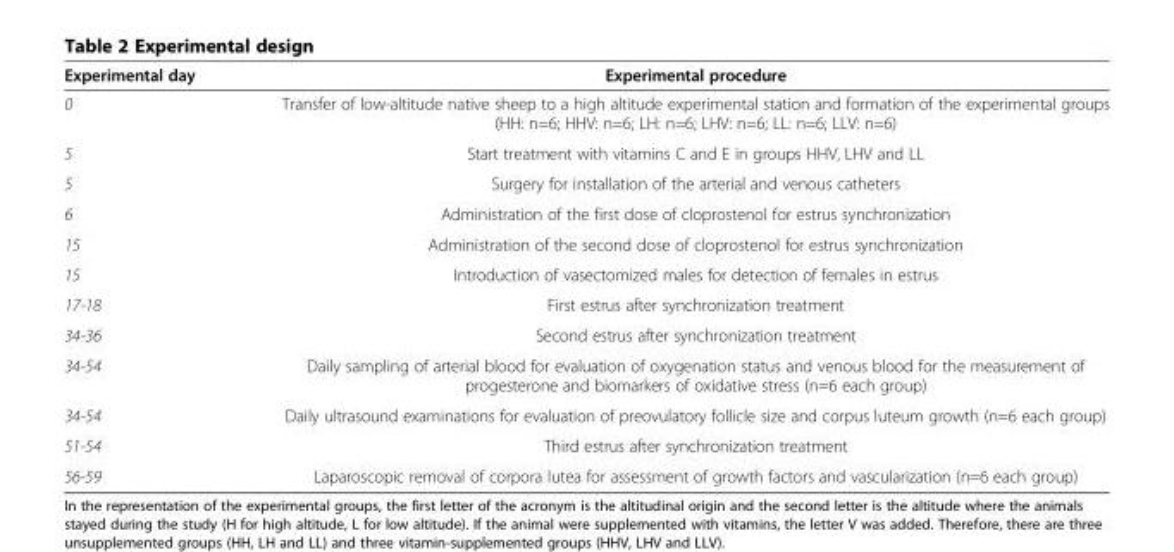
<table><thead><tr><td>Experimental day</td><td>Experimental procedure</td></tr></thead><tbody><tr><td>0</td><td>Transfer of low-altitude native sheep to a high altitude experimental station and formation of the experimental groups (HH: n=6; HHV: n=6; LH: n=6; LHV: n=6; LL: n=6; LLV: n=6)</td></tr><tr><td>5</td><td>Start treatment with vitamins C and E in groups HHV, LHV and LL</td></tr><tr><td>5</td><td>Surgery for installation of the arterial and venous catheters</td></tr><tr><td>6</td><td>Administration of the first dose of cloprostenol for estrus synchronization</td></tr><tr><td>15</td><td>Administration of the second dose of cloprostenol for estrus synchronization</td></tr><tr><td>15</td><td>Introduction of vasectomized males for detection of females in estrus</td></tr><tr><td>17-18</td><td>First estrus after synchronization treatment</td></tr><tr><td>34-36</td><td>Second estrus after synchronization treatment</td></tr><tr><td>34-54</td><td>Daily sampling of arterial blood for evaluation of oxygenation status and venous blood for the measurement of progesterone and biomarkers of oxidative stress (n=6 each group)</td></tr><tr><td>34-54</td><td>Daily ultrasound examinations for evaluation of preovulatory follicle size and corpus luteum growth (n=6 each group)</td></tr><tr><td>51-54</td><td>Third estrus after synchronization treatment</td></tr><tr><td>56-59</td><td>Laparoscopic removal of corpora lutea for assessment of growth factors and vascularization (n=6 each group)</td></tr></tbody></table>